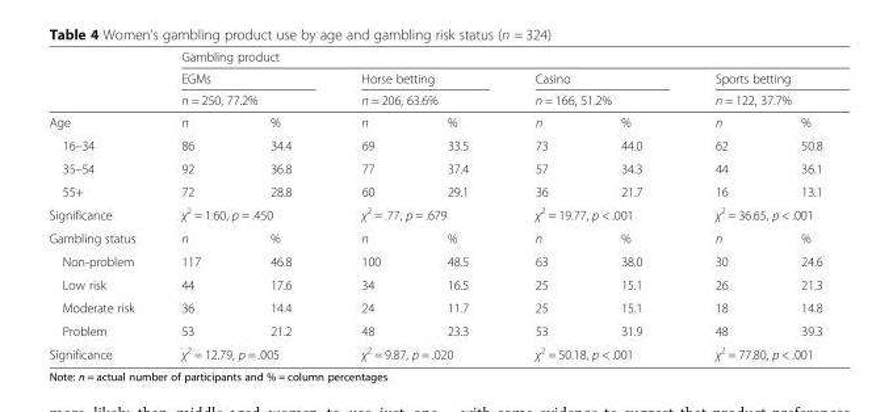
<table><thead><tr><td rowspan="4">Age</td><td colspan="8">Gambling product</td></tr><tr><td rowspan="2" colspan="2">EGMs n = 250, 77.2%</td><td rowspan="2" colspan="2">Horse betting n = 206, 63.6%</td><td rowspan="2" colspan="2">Casino n = 166, 51.2%</td><td rowspan="2" colspan="2">Sports betting n = 122, 37.7%</td></tr><tr></tr><tr><td>n</td><td>%</td><td>n</td><td>%</td><td>n</td><td>%</td><td>n</td><td>%</td></tr></thead><tbody><tr><td>16–34</td><td>86</td><td>34.4</td><td>69</td><td>33.5</td><td>73</td><td>44.0</td><td>62</td><td>50.8</td></tr><tr><td>35–54</td><td>92</td><td>36.8</td><td>77</td><td>37.4</td><td>57</td><td>34.3</td><td>44</td><td>36.1</td></tr><tr><td>55+</td><td>72</td><td>28.8</td><td>60</td><td>29.1</td><td>36</td><td>21.7</td><td>16</td><td>13.1</td></tr><tr><td>Significance</td><td colspan="2">χ<sup>2</sup> = 1.60, p = .450</td><td colspan="2">χ<sup>2</sup> = .77, p = .679</td><td colspan="2">χ<sup>2</sup> = 19.77, p &lt; .001</td><td colspan="2">χ<sup>2</sup> = 36.65, p &lt; .001</td></tr><tr><td>Gambling status</td><td>n</td><td>%</td><td>n</td><td>%</td><td>n</td><td>%</td><td>n</td><td>%</td></tr><tr><td>Non-problem</td><td>117</td><td>46.8</td><td>100</td><td>48.5</td><td>63</td><td>38.0</td><td>30</td><td>24.6</td></tr><tr><td>Low risk</td><td>44</td><td>17.6</td><td>34</td><td>16.5</td><td>25</td><td>15.1</td><td>26</td><td>21.3</td></tr><tr><td>Moderate risk</td><td>36</td><td>14.4</td><td>24</td><td>11.7</td><td>25</td><td>15.1</td><td>18</td><td>14.8</td></tr><tr><td>Problem</td><td>53</td><td>21.2</td><td>48</td><td>23.3</td><td>53</td><td>31.9</td><td>48</td><td>39.3</td></tr><tr><td>Significance</td><td colspan="2">χ<sup>2</sup> = 12.79, p = .005</td><td colspan="2">χ<sup>2</sup> = 9.87, p = .020</td><td colspan="2">χ<sup>2</sup> = 50.18, p &lt; .001</td><td colspan="2">χ<sup>2</sup> = 77.80, p &lt; .001</td></tr></tbody></table>